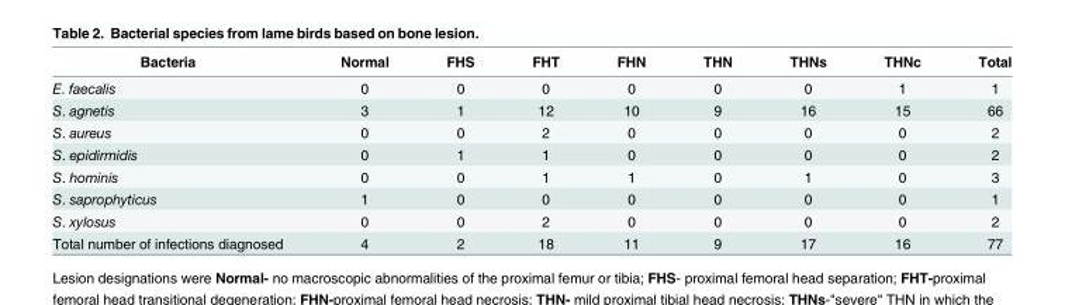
<table><thead><tr><td>Bacteria</td><td>Normal</td><td>FHS</td><td>FHT</td><td>FHN</td><td>THN</td><td>THNs</td><td>THNc</td><td>Total</td></tr></thead><tbody><tr><td>E. faecalis</td><td>0</td><td>0</td><td>0</td><td>0</td><td>0</td><td>0</td><td>1</td><td>1</td></tr><tr><td>S. agnetis</td><td>3</td><td>1</td><td>12</td><td>10</td><td>9</td><td>16</td><td>15</td><td>66</td></tr><tr><td>S. aureus</td><td>0</td><td>0</td><td>2</td><td>0</td><td>0</td><td>0</td><td>0</td><td>2</td></tr><tr><td>S. epidirmidis</td><td>0</td><td>1</td><td>1</td><td>0</td><td>0</td><td>0</td><td>0</td><td>2</td></tr><tr><td>S. hominis</td><td>0</td><td>0</td><td>1</td><td>1</td><td>0</td><td>1</td><td>0</td><td>3</td></tr><tr><td>S. saprophyticus</td><td>1</td><td>0</td><td>0</td><td>0</td><td>0</td><td>0</td><td>0</td><td>1</td></tr><tr><td>S. xylosus</td><td>0</td><td>0</td><td>2</td><td>0</td><td>0</td><td>0</td><td>0</td><td>2</td></tr><tr><td>Total number of infections diagnosed</td><td>4</td><td>2</td><td>18</td><td>11</td><td>9</td><td>17</td><td>16</td><td>77</td></tr></tbody></table>